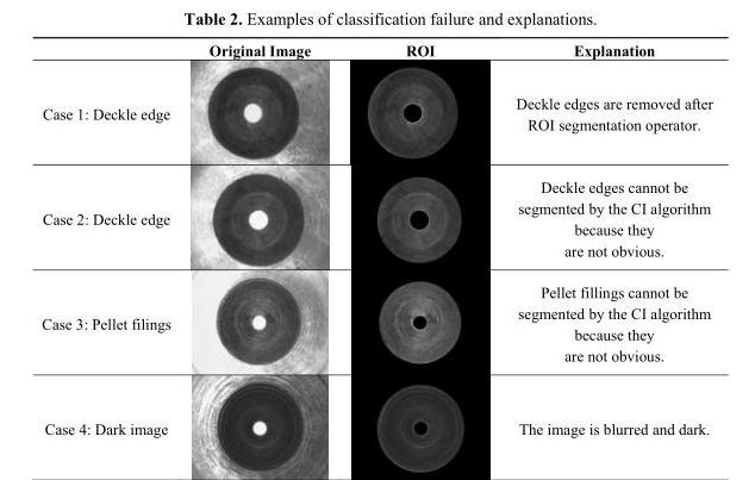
<table><thead><tr><td></td><td>Original Image</td><td>ROI</td><td>Explanation</td></tr></thead><tbody><tr><td>Case 1: Deckle edge</td><td></td><td></td><td>Deckle edges are removed after ROI segmentation operator.</td></tr><tr><td>Case 2: Deckle edge</td><td></td><td></td><td>Deckle edges cannot be segmented by the CI algorithm because they are not obvious.</td></tr><tr><td>Case 3: Pellet filings</td><td></td><td></td><td>Pellet fillings cannot be segmented by the CI algorithm because they are not obvious.</td></tr><tr><td>Case 4: Dark image</td><td></td><td></td><td>The image is blurred and dark.</td></tr></tbody></table>